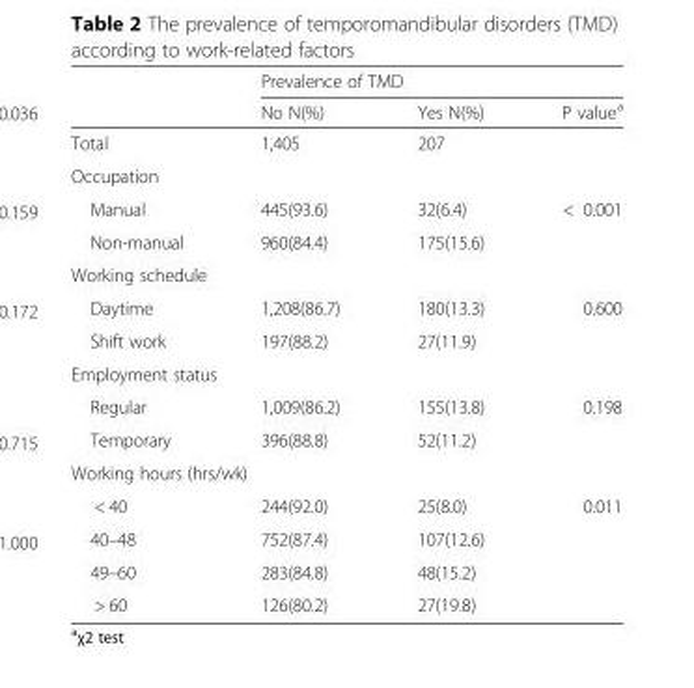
<table><thead><tr><td rowspan="2"></td><td colspan="3">Prevalence of TMD</td></tr><tr><td>No N(%)</td><td>Yes N(%)</td><td>P value<sup>a</sup></td></tr></thead><tbody><tr><td>Total</td><td>1,405</td><td>207</td><td></td></tr><tr><td colspan="4">Occupation</td></tr><tr><td>Manual</td><td>445(93.6)</td><td>32(6.4)</td><td rowspan="2">&lt; 0.001</td></tr><tr><td>Non-manual</td><td>960(84.4)</td><td>175(15.6)</td></tr><tr><td colspan="4">Working schedule</td></tr><tr><td>Daytime</td><td>1,208(86.7)</td><td>180(13.3)</td><td rowspan="2">0.600</td></tr><tr><td>Shift work</td><td>197(88.2)</td><td>27(11.9)</td></tr><tr><td colspan="4">Employment status</td></tr><tr><td>Regular</td><td>1,009(86.2)</td><td>155(13.8)</td><td rowspan="2">0.198</td></tr><tr><td>Temporary</td><td>396(88.8)</td><td>52(11.2)</td></tr><tr><td colspan="4">Working hours (hrs/wk)</td></tr><tr><td>&lt; 40</td><td>244(92.0)</td><td>25(8.0)</td><td rowspan="4">0.011</td></tr><tr><td>40–48</td><td>752(87.4)</td><td>107(12.6)</td></tr><tr><td>49–60</td><td>283(84.8)</td><td>48(15.2)</td></tr><tr><td>&gt; 60</td><td>126(80.2)</td><td>27(19.8)</td></tr></tbody></table>